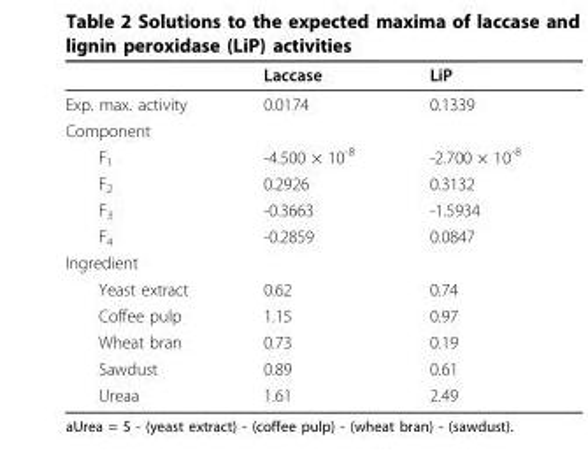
<table><thead><tr><td></td><td>Laccase</td><td>LiP</td></tr></thead><tbody><tr><td>Exp. max. activity</td><td>0.0174</td><td>0.1339</td></tr><tr><td colspan="3">Component</td></tr><tr><td>F<sub>1</sub></td><td>-4.500 × 10<sup>-8</sup></td><td>-2.700 × 10<sup>-8</sup></td></tr><tr><td>F<sub>2</sub></td><td>0.2926</td><td>0.3132</td></tr><tr><td>F<sub>3</sub></td><td>-0.3663</td><td>-1.5934</td></tr><tr><td>F<sub>4</sub></td><td>-0.2859</td><td>0.0847</td></tr><tr><td colspan="3">Ingredient</td></tr><tr><td>Yeast extract</td><td>0.62</td><td>0.74</td></tr><tr><td>Coffee pulp</td><td>1.15</td><td>0.97</td></tr><tr><td>Wheat bran</td><td>0.73</td><td>0.19</td></tr><tr><td>Sawdust</td><td>0.89</td><td>0.61</td></tr><tr><td>Ureaa</td><td>1.61</td><td>2.49</td></tr></tbody></table>